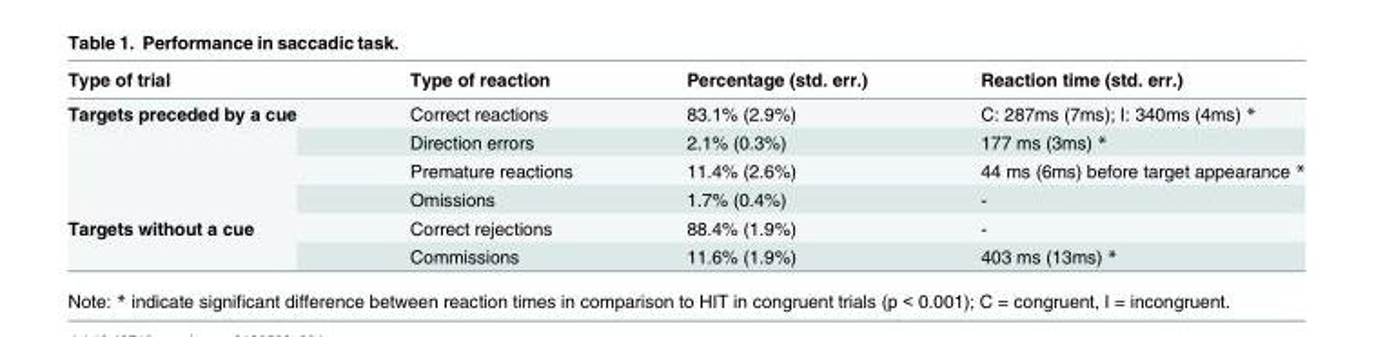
<table><thead><tr><td>Type of trial</td><td>Type of reaction</td><td>Percentage (std. err.)</td><td>Reaction time (std. err.)</td></tr></thead><tbody><tr><td rowspan="4">Targets preceded by a cue</td><td>Correct reactions</td><td>83.1% (2.9%)</td><td>C: 287ms (7ms); I: 340ms (4ms) *</td></tr><tr><td>Direction errors</td><td>2.1% (0.3%)</td><td>177 ms (3ms) *</td></tr><tr><td>Premature reactions</td><td>11.4% (2.6%)</td><td>44 ms (6ms) before target appearance *</td></tr><tr><td>Omissions</td><td>1.7% (0.4%)</td><td>-</td></tr><tr><td rowspan="2">Targets without a cue</td><td>Correct rejections</td><td>88.4% (1.9%)</td><td>-</td></tr><tr><td>Commissions</td><td>11.6% (1.9%)</td><td>403 ms (13ms) *</td></tr></tbody></table>